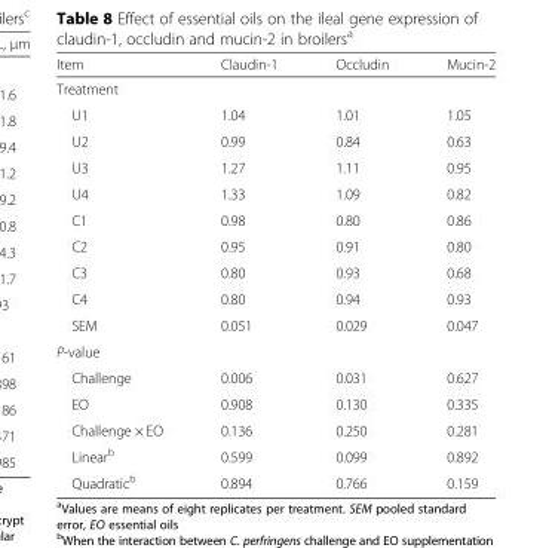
<table><thead><tr><td>Item</td><td>Claudin-1</td><td>Occludin</td><td>Mucin-2</td></tr></thead><tbody><tr><td colspan="4">Treatment</td></tr><tr><td>U1</td><td>1.04</td><td>1.01</td><td>1.05</td></tr><tr><td>U2</td><td>0.99</td><td>0.84</td><td>0.63</td></tr><tr><td>U3</td><td>1.27</td><td>1.11</td><td>0.95</td></tr><tr><td>U4</td><td>1.33</td><td>1.09</td><td>0.82</td></tr><tr><td>C1</td><td>0.98</td><td>0.80</td><td>0.86</td></tr><tr><td>C2</td><td>0.95</td><td>0.91</td><td>0.80</td></tr><tr><td>C3</td><td>0.80</td><td>0.93</td><td>0.68</td></tr><tr><td>C4</td><td>0.80</td><td>0.94</td><td>0.93</td></tr><tr><td>SEM</td><td>0.051</td><td>0.029</td><td>0.047</td></tr><tr><td colspan="4">P-value</td></tr><tr><td>Challenge</td><td>0.006</td><td>0.031</td><td>0.627</td></tr><tr><td>EO</td><td>0.908</td><td>0.130</td><td>0.335</td></tr><tr><td>Challenge × EO</td><td>0.136</td><td>0.250</td><td>0.281</td></tr><tr><td>Linear<sup>b</sup></td><td>0.599</td><td>0.099</td><td>0.892</td></tr><tr><td>Quadratic<sup>b</sup></td><td>0.894</td><td>0.766</td><td>0.159</td></tr></tbody></table>